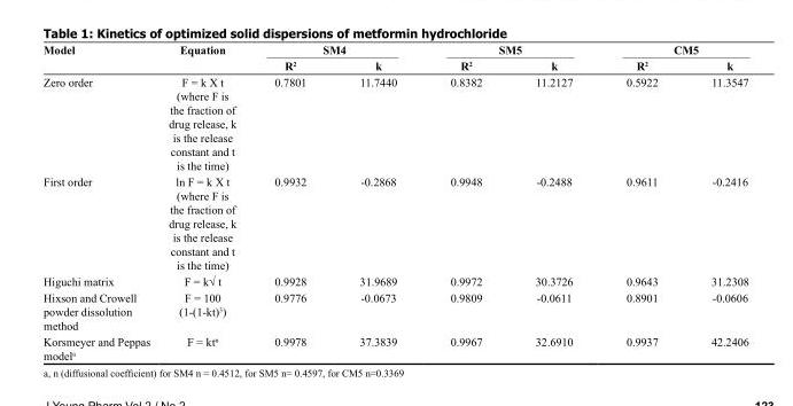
<table><thead><tr><td rowspan="2">Model</td><td rowspan="2">Equation</td><td colspan="2">SM4</td><td colspan="2">SM5</td><td colspan="2">CM5</td></tr><tr><td>R<sup>2</sup></td><td>k</td><td>R<sup>2</sup></td><td>k</td><td>R<sup>2</sup></td><td>k</td></tr></thead><tbody><tr><td>Zero order</td><td>F = k X t (where F is the fraction of drug release, k is the release constant and t is the time)</td><td>0.7801</td><td>11.7440</td><td>0.8382</td><td>11.2127</td><td>0.5922</td><td>11.3547</td></tr><tr><td>First order</td><td>ln F = k X t (where F is the fraction of drug release, k is the release constant and t is the time)</td><td>0.9932</td><td>-0.2868</td><td>0.9948</td><td>-0.2488</td><td>0.9611</td><td>-0.2416</td></tr><tr><td>Higuchi matrix</td><td>F = k√ t</td><td>0.9928</td><td>31.9689</td><td>0.9972</td><td>30.3726</td><td>0.9643</td><td>31.2308</td></tr><tr><td>Hixson and Crowell powder dissolution method</td><td>F = 100 (1-(1-kt)<sup>3</sup>)</td><td>0.9776</td><td>-0.0673</td><td>0.9809</td><td>-0.0611</td><td>0.8901</td><td>-0.0606</td></tr><tr><td>Korsmeyer and Peppas model<sup>a</sup></td><td>F = kt<sup>n</sup></td><td>0.9978</td><td>37.3839</td><td>0.9967</td><td>32.6910</td><td>0.9937</td><td>42.2406</td></tr></tbody></table>